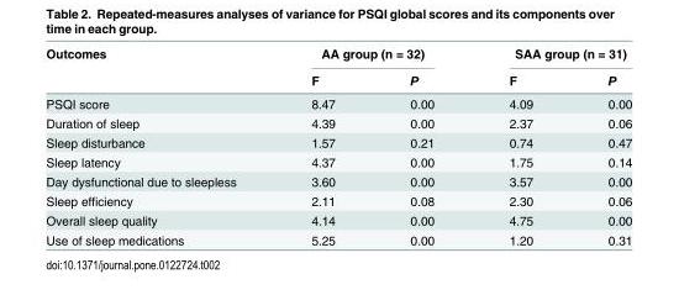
<table><thead><tr><td rowspan="2">Outcomes</td><td colspan="2">AA group (n = 32)</td><td colspan="2">SAA group (n = 31)</td></tr><tr><td>F</td><td>P</td><td>F</td><td>P</td></tr></thead><tbody><tr><td>PSQI score</td><td>8.47</td><td>0.00</td><td>4.09</td><td>0.00</td></tr><tr><td>Duration of sleep</td><td>4.39</td><td>0.00</td><td>2.37</td><td>0.06</td></tr><tr><td>Sleep disturbance</td><td>1.57</td><td>0.21</td><td>0.74</td><td>0.47</td></tr><tr><td>Sleep latency</td><td>4.37</td><td>0.00</td><td>1.75</td><td>0.14</td></tr><tr><td>Day dysfunctional due to sleepless</td><td>3.60</td><td>0.00</td><td>3.57</td><td>0.00</td></tr><tr><td>Sleep efficiency</td><td>2.11</td><td>0.08</td><td>2.30</td><td>0.06</td></tr><tr><td>Overall sleep quality</td><td>4.14</td><td>0.00</td><td>4.75</td><td>0.00</td></tr><tr><td>Use of sleep medications</td><td>5.25</td><td>0.00</td><td>1.20</td><td>0.31</td></tr></tbody></table>